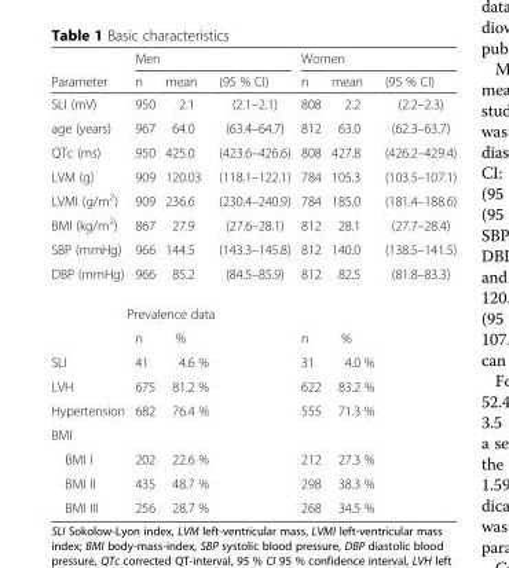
<table><thead><tr><td rowspan="2">Parameter</td><td colspan="3">Men</td><td colspan="3">Women</td></tr><tr><td>n</td><td>mean</td><td>(95 % CI)</td><td>n</td><td>mean</td><td>(95 % CI)</td></tr></thead><tbody><tr><td>SLI (mV)</td><td>950</td><td>2.1</td><td>(2.1–2.1)</td><td>808</td><td>2.2</td><td>(2.2–2.3)</td></tr><tr><td>age (years)</td><td>967</td><td>64.0</td><td>(63.4–64.7)</td><td>812</td><td>63.0</td><td>(62.3–63.7)</td></tr><tr><td>QTc (ms)</td><td>950</td><td>425.0</td><td>(423.6–426.6)</td><td>808</td><td>427.8</td><td>(426.2–429.4)</td></tr><tr><td>LVM (g)</td><td>909</td><td>120.03</td><td>(118.1–122.1)</td><td>784</td><td>105.3</td><td>(103.5–107.1)</td></tr><tr><td>LVMI (g/m<sup>2</sup>)</td><td>909</td><td>236.6</td><td>(230.4–240.9)</td><td>784</td><td>185.0</td><td>(181.4–188.6)</td></tr><tr><td>BMI (kg/m<sup>2</sup>)</td><td>867</td><td>27.9</td><td>(27.6–28.1)</td><td>812</td><td>28.1</td><td>(27.7–28.4)</td></tr><tr><td>SBP (mmHg)</td><td>966</td><td>144.5</td><td>(143.3–145.8)</td><td>812</td><td>140.0</td><td>(138.5–141.5)</td></tr><tr><td>DBP (mmHg)</td><td>966</td><td>85.2</td><td>(84.5–85.9)</td><td>812</td><td>82.5</td><td>(81.8–83.3)</td></tr><tr><td colspan="7">Prevalence data</td></tr><tr><td></td><td>n</td><td>%</td><td></td><td>n</td><td>%</td><td></td></tr><tr><td>SLI</td><td>41</td><td>4.6 %</td><td></td><td>31</td><td>4.0 %</td><td></td></tr><tr><td>LVH</td><td>675</td><td>81.2 %</td><td></td><td>622</td><td>83.2 %</td><td></td></tr><tr><td>Hypertension</td><td>682</td><td>76.4 %</td><td></td><td>555</td><td>71.3 %</td><td></td></tr><tr><td colspan="7">BMI</td></tr><tr><td>BMI I</td><td>202</td><td>22.6 %</td><td></td><td>212</td><td>27.3 %</td><td></td></tr><tr><td>BMI II</td><td>435</td><td>48.7 %</td><td></td><td>298</td><td>38.3 %</td><td></td></tr><tr><td>BMI III</td><td>256</td><td>28.7 %</td><td></td><td>268</td><td>34.5 %</td><td></td></tr></tbody></table>